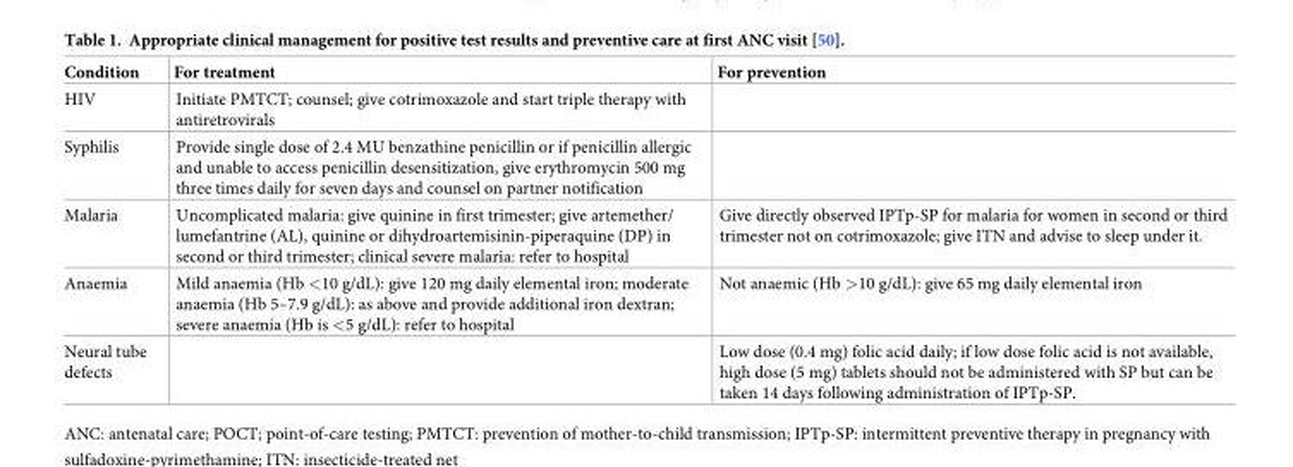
<table><thead><tr><td>Condition</td><td>For treatment</td><td>For prevention</td></tr></thead><tbody><tr><td>HIV</td><td>Initiate PMTCT; counsel; give cotrimoxazole and start triple therapy with antiretrovirals</td><td></td></tr><tr><td>Syphilis</td><td>Provide single dose of 2.4 MU benzathine penicillin or if penicillin allergic and unable to access penicillin desensitization, give erythromycin 500 mg three times daily for seven days and counsel on partner notification</td><td></td></tr><tr><td>Malaria</td><td>Uncomplicated malaria: give quinine in first trimester; give artemether/ lumefantrine (AL), quinine or dihydroartemisinin-piperaquine (DP) in second or third trimester; clinical severe malaria: refer to hospital</td><td>Give directly observed IPTp-SP for malaria for women in second or third trimester not on cotrimoxazole; give ITN and advise to sleep under it.</td></tr><tr><td>Anaemia</td><td>Mild anaemia (Hb &lt;10 g/dL): give 120 mg daily elemental iron; moderate anaemia (Hb 5–7.9 g/dL): as above and provide additional iron dextran; severe anaemia (Hb is &lt;5 g/dL): refer to hospital</td><td>Not anaemic (Hb &gt;10 g/dL): give 65 mg daily elemental iron</td></tr><tr><td>Neural tube defects</td><td></td><td>Low dose (0.4 mg) folic acid daily; if low dose folic acid is not available, high dose (5 mg) tablets should not be administered with SP but can be taken 14 days following administration of IPTp-SP.</td></tr></tbody></table>